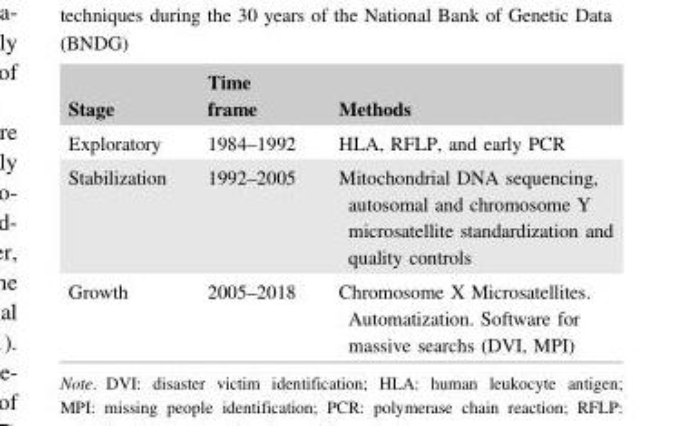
<table><thead><tr><td>Stage</td><td>Time frame</td><td>Methods</td></tr></thead><tbody><tr><td>Exploratory</td><td>1984–1992</td><td>HLA, RFLP, and early PCR</td></tr><tr><td>Stabilization</td><td>1992–2005</td><td>Mitochondrial DNA sequencing, autosomal and chromosome Y microsatellite standardization and quality controls</td></tr><tr><td>Growth</td><td>2005–2018</td><td>Chromosome X Microsatellites. Automatization. Software for massive searchs (DVI, MPI)</td></tr></tbody></table>